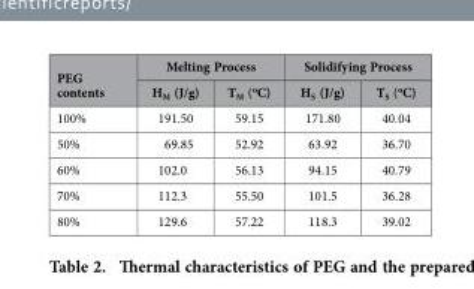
<table><thead><tr><td rowspan="2">PEG contents</td><td colspan="2">Melting Process</td><td colspan="2">Solidifying Process</td></tr><tr><td>H<sub>M</sub> (J/g)</td><td>T<sub>M</sub> (<sup>o</sup>C)</td><td>H<sub>S</sub> (J/g)</td><td>T<sub>S</sub> (<sup>o</sup>C)</td></tr></thead><tbody><tr><td>100%</td><td>191.50</td><td>59.15</td><td>171.80</td><td>40.04</td></tr><tr><td>50%</td><td>69.85</td><td>52.92</td><td>63.92</td><td>36.70</td></tr><tr><td>60%</td><td>102.0</td><td>56.13</td><td>94.15</td><td>40.79</td></tr><tr><td>70%</td><td>112.3</td><td>55.50</td><td>101.5</td><td>36.28</td></tr><tr><td>80%</td><td>129.6</td><td>57.22</td><td>118.3</td><td>39.02</td></tr></tbody></table>